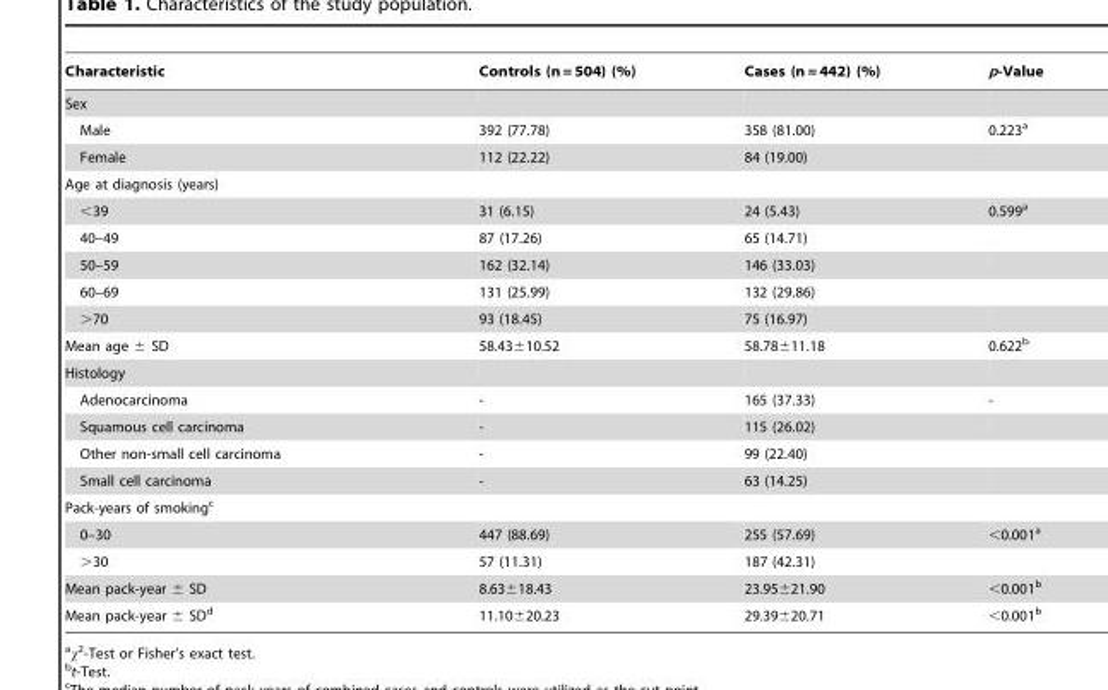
<table><thead><tr><td>Characteristic</td><td>Controls (n = 504) (%)</td><td>Cases (n = 442) (%)</td><td>p-Value</td></tr></thead><tbody><tr><td colspan="4">Sex</td></tr><tr><td>Male</td><td>392 (77.78)</td><td>358 (81.00)</td><td>0.223<sup>a</sup></td></tr><tr><td>Female</td><td>112 (22.22)</td><td>84 (19.00)</td><td></td></tr><tr><td colspan="4">Age at diagnosis (years)</td></tr><tr><td>&lt;39</td><td>31 (6.15)</td><td>24 (5.43)</td><td>0.599<sup>a</sup></td></tr><tr><td>40–49</td><td>87 (17.26)</td><td>65 (14.71)</td><td></td></tr><tr><td>50–59</td><td>162 (32.14)</td><td>146 (33.03)</td><td></td></tr><tr><td>60–69</td><td>131 (25.99)</td><td>132 (29.86)</td><td></td></tr><tr><td>&gt;70</td><td>93 (18.45)</td><td>75 (16.97)</td><td></td></tr><tr><td>Mean age ± SD</td><td>58.43±10.52</td><td>58.78±11.18</td><td>0.622<sup>b</sup></td></tr><tr><td colspan="4">Histology</td></tr><tr><td>Adenocarcinoma</td><td>-</td><td>165 (37.33)</td><td>-</td></tr><tr><td>Squamous cell carcinoma</td><td>-</td><td>115 (26.02)</td><td></td></tr><tr><td>Other non-small cell carcinoma</td><td>-</td><td>99 (22.40)</td><td></td></tr><tr><td>Small cell carcinoma</td><td>-</td><td>63 (14.25)</td><td></td></tr><tr><td colspan="4">Pack-years of smoking<sup>c</sup></td></tr><tr><td>0–30</td><td>447 (88.69)</td><td>255 (57.69)</td><td>&lt;0.001<sup>a</sup></td></tr><tr><td>&gt;30</td><td>57 (11.31)</td><td>187 (42.31)</td><td></td></tr><tr><td>Mean pack-year ± SD</td><td>8.63±18.43</td><td>23.95±21.90</td><td>&lt;0.001<sup>b</sup></td></tr><tr><td>Mean pack-year ± SD<sup>d</sup></td><td>11.10±20.23</td><td>29.39±20.71</td><td>&lt;0.001<sup>b</sup></td></tr></tbody></table>